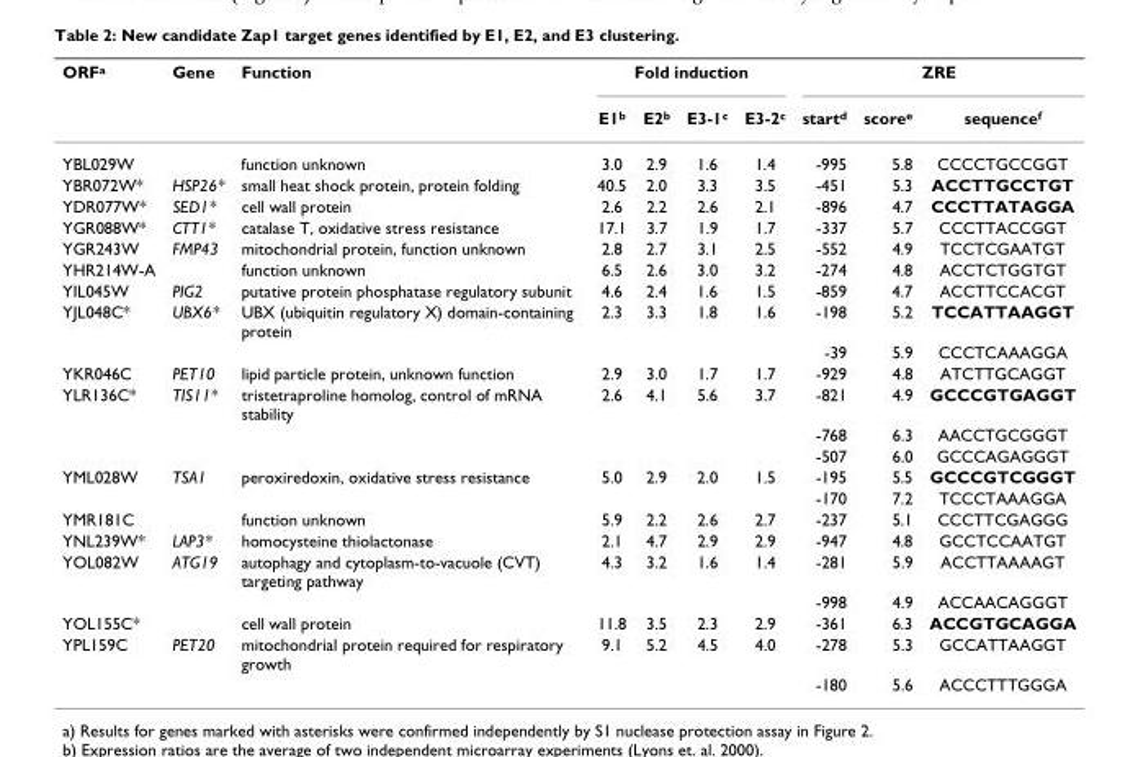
<table><thead><tr><td rowspan="2">ORF<sup>a</sup></td><td rowspan="2">Gene</td><td rowspan="2">Function</td><td colspan="4">Fold induction</td><td colspan="3">ZRE</td></tr><tr><td>E1<sup>b</sup></td><td>E2<sup>b</sup></td><td>E3-1<sup>c</sup></td><td>E3-2<sup>c</sup></td><td>start<sup>d</sup></td><td>score<sup>e</sup></td><td>sequence<sup>f</sup></td></tr></thead><tbody><tr><td>YBL029W</td><td></td><td>function unknown</td><td>3.0</td><td>2.9</td><td>1.6</td><td>1.4</td><td>-995</td><td>5.8</td><td>CCCCTGCCGGT</td></tr><tr><td>YBR072W*</td><td>HSP26*</td><td>small heat shock protein, protein folding</td><td>40.5</td><td>2.0</td><td>3.3</td><td>3.5</td><td>-451</td><td>5.3</td><td>ACCTTGCCTGT</td></tr><tr><td>YDR077W*</td><td>SED1*</td><td>cell wall protein</td><td>2.6</td><td>2.2</td><td>2.6</td><td>2.1</td><td>-896</td><td>4.7</td><td>CCCTTATAGGA</td></tr><tr><td>YGR088W*</td><td>CTT1*</td><td>catalase T, oxidative stress resistance</td><td>17.1</td><td>3.7</td><td>1.9</td><td>1.7</td><td>-337</td><td>5.7</td><td>CCCTTACCGGT</td></tr><tr><td>YGR243W</td><td>FMP43</td><td>mitochondrial protein, function unknown</td><td>2.8</td><td>2.7</td><td>3.1</td><td>2.5</td><td>-552</td><td>4.9</td><td>TCCTCGAATGT</td></tr><tr><td>YHR214W-A</td><td></td><td>function unknown</td><td>6.5</td><td>2.6</td><td>3.0</td><td>3.2</td><td>-274</td><td>4.8</td><td>ACCTCTGGTGT</td></tr><tr><td>YIL045W</td><td>PIG2</td><td>putative protein phosphatase regulatory subunit</td><td>4.6</td><td>2.4</td><td>1.6</td><td>1.5</td><td>-859</td><td>4.7</td><td>ACCTTCCACGT</td></tr><tr><td rowspan="2">YJL048C*</td><td>UBX6*</td><td>UBX (ubiquitin regulatory X) domain-containing protein</td><td>2.3</td><td>3.3</td><td>1.8</td><td>1.6</td><td>-198</td><td>5.2</td><td>TCCATTAAGGT</td></tr><tr><td></td><td></td><td></td><td></td><td></td><td></td><td>-39</td><td>5.9</td><td>CCCTCAAAGGA</td></tr><tr><td>YKR046C</td><td>PET10</td><td>lipid particle protein, unknown function</td><td>2.9</td><td>3.0</td><td>1.7</td><td>1.7</td><td>-929</td><td>4.8</td><td>ATCTTGCAGGT</td></tr><tr><td rowspan="3">YLR136C*</td><td>TIS11*</td><td>tristetraproline homolog, control of mRNA stability</td><td>2.6</td><td>4.1</td><td>5.6</td><td>3.7</td><td>-821</td><td>4.9</td><td>GCCCGTGAGGT</td></tr><tr><td></td><td></td><td></td><td></td><td></td><td></td><td>-768</td><td>6.3</td><td>AACCTGCGGGT</td></tr><tr><td></td><td></td><td></td><td></td><td></td><td></td><td>-507</td><td>6.0</td><td>GCCCAGAGGGT</td></tr><tr><td rowspan="2">YML028W</td><td>TSA1</td><td>peroxiredoxin, oxidative stress resistance</td><td>5.0</td><td>2.9</td><td>2.0</td><td>1.5</td><td>-195</td><td>5.5</td><td>GCCCGTCGGGT</td></tr><tr><td></td><td></td><td></td><td></td><td></td><td></td><td>-170</td><td>7.2</td><td>TCCCTAAAGGA</td></tr><tr><td>YMR181C</td><td></td><td>function unknown</td><td>5.9</td><td>2.2</td><td>2.6</td><td>2.7</td><td>-237</td><td>5.1</td><td>CCCTTCGAGGG</td></tr><tr><td>YNL239W*</td><td>LAP3*</td><td>homocysteine thiolactonase</td><td>2.1</td><td>4.7</td><td>2.9</td><td>2.9</td><td>-947</td><td>4.8</td><td>GCCTCCAATGT</td></tr><tr><td rowspan="2">YOL082W</td><td>ATG19</td><td>autophagy and cytoplasm-to-vacuole (CVT) targeting pathway</td><td>4.3</td><td>3.2</td><td>1.6</td><td>1.4</td><td>-281</td><td>5.9</td><td>ACCTTAAAAGT</td></tr><tr><td></td><td></td><td></td><td></td><td></td><td></td><td>-998</td><td>4.9</td><td>ACCAACAGGGT</td></tr><tr><td>YOL155C*</td><td></td><td>cell wall protein</td><td>11.8</td><td>3.5</td><td>2.3</td><td>2.9</td><td>-361</td><td>6.3</td><td>ACCGTGCAGGA</td></tr><tr><td rowspan="2">YPL159C</td><td>PET20</td><td>mitochondrial protein required for respiratory growth</td><td>9.1</td><td>5.2</td><td>4.5</td><td>4.0</td><td>-278</td><td>5.3</td><td>GCCATTAAGGT</td></tr><tr><td></td><td></td><td></td><td></td><td></td><td></td><td>-180</td><td>5.6</td><td>ACCCTTTGGGA</td></tr></tbody></table>